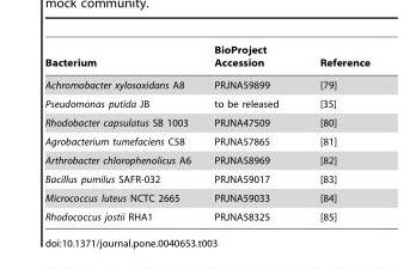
<table><thead><tr><td>Bacterium</td><td>BioProject Accession</td><td>Reference</td></tr></thead><tbody><tr><td>Achromobacter xylosoxidans A8</td><td>PRJNA59899</td><td>[79]</td></tr><tr><td>Pseudomonas putida JB</td><td>to be released</td><td>[35]</td></tr><tr><td>Rhodobacter capsulatus SB 1003</td><td>PRJNA47509</td><td>[80]</td></tr><tr><td>Agrobacterium tumefaciens C58</td><td>PRJNA57865</td><td>[81]</td></tr><tr><td>Arthrobacter chlorophenolicus A6</td><td>PRJNA58969</td><td>[82]</td></tr><tr><td>Bacillus pumilus SAFR-032</td><td>PRJNA59017</td><td>[83]</td></tr><tr><td>Micrococcus luteus NCTC 2665</td><td>PRJNA59033</td><td>[84]</td></tr><tr><td>Rhodococcus jostii RHA1</td><td>PRJNA58325</td><td>[85]</td></tr></tbody></table>